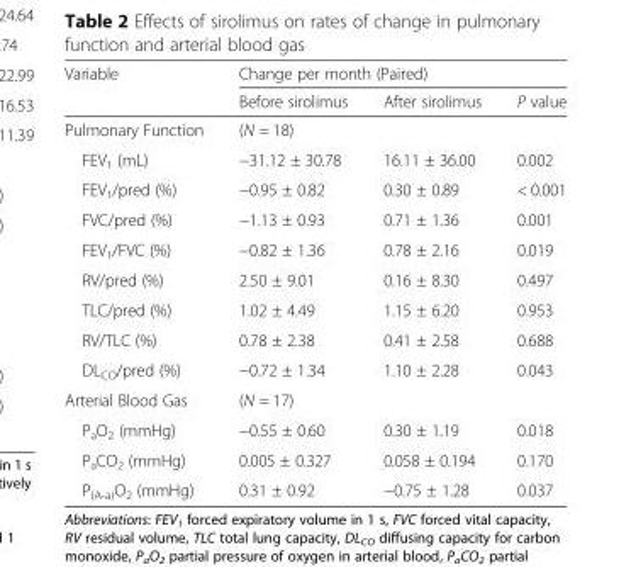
<table><thead><tr><td rowspan="2">Variable</td><td colspan="3">Change per month (Paired)</td></tr><tr><td>Before sirolimus</td><td>After sirolimus</td><td>P value</td></tr></thead><tbody><tr><td>Pulmonary Function</td><td colspan="2">(N = 18)</td><td></td></tr><tr><td>FEV<sub>1</sub> (mL)</td><td>−31.12 ± 30.78</td><td>16.11 ± 36.00</td><td>0.002</td></tr><tr><td>FEV<sub>1</sub>/pred (%)</td><td>−0.95 ± 0.82</td><td>0.30 ± 0.89</td><td>&lt; 0.001</td></tr><tr><td>FVC/pred (%)</td><td>−1.13 ± 0.93</td><td>0.71 ± 1.36</td><td>0.001</td></tr><tr><td>FEV<sub>1</sub>/FVC (%)</td><td>−0.82 ± 1.36</td><td>0.78 ± 2.16</td><td>0.019</td></tr><tr><td>RV/pred (%)</td><td>2.50 ± 9.01</td><td>0.16 ± 8.30</td><td>0.497</td></tr><tr><td>TLC/pred (%)</td><td>1.02 ± 4.49</td><td>1.15 ± 6.20</td><td>0.953</td></tr><tr><td>RV/TLC (%)</td><td>0.78 ± 2.38</td><td>0.41 ± 2.58</td><td>0.688</td></tr><tr><td>DL<sub>CO</sub>/pred (%)</td><td>−0.72 ± 1.34</td><td>1.10 ± 2.28</td><td>0.043</td></tr><tr><td>Arterial Blood Gas</td><td colspan="2">(N = 17)</td><td></td></tr><tr><td>P<sub>a</sub>O<sub>2</sub> (mmHg)</td><td>−0.55 ± 0.60</td><td>0.30 ± 1.19</td><td>0.018</td></tr><tr><td>P<sub>a</sub>CO<sub>2</sub> (mmHg)</td><td>0.005 ± 0.327</td><td>0.058 ± 0.194</td><td>0.170</td></tr><tr><td>P<sub>(A-a)</sub>O<sub>2</sub> (mmHg)</td><td>0.31 ± 0.92</td><td>−0.75 ± 1.28</td><td>0.037</td></tr></tbody></table>